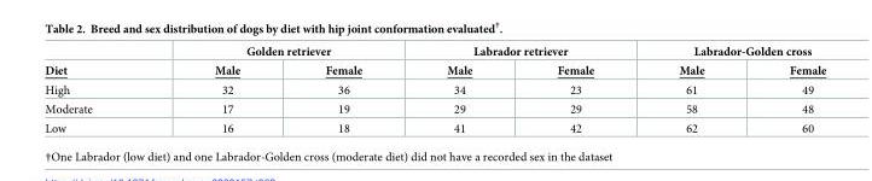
<table><thead><tr><td rowspan="2">Diet</td><td colspan="2">Golden retriever</td><td colspan="2">Labrador retriever</td><td colspan="2">Labrador-Golden cross</td></tr><tr><td>Male</td><td>Female</td><td>Male</td><td>Female</td><td>Male</td><td>Female</td></tr></thead><tbody><tr><td>High</td><td>32</td><td>36</td><td>34</td><td>23</td><td>61</td><td>49</td></tr><tr><td>Moderate</td><td>17</td><td>19</td><td>29</td><td>29</td><td>58</td><td>48</td></tr><tr><td>Low</td><td>16</td><td>18</td><td>41</td><td>42</td><td>62</td><td>60</td></tr></tbody></table>